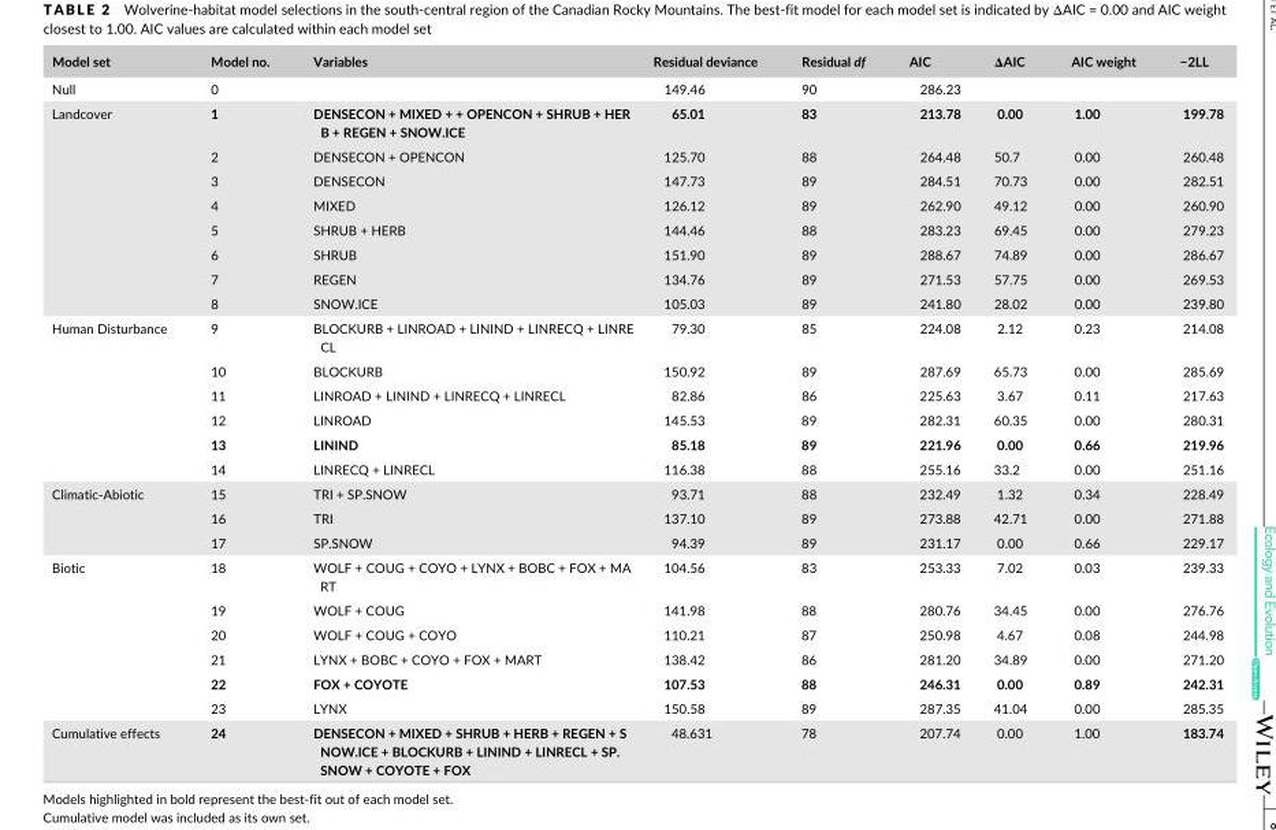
<table><thead><tr><td>Model set</td><td>Model no.</td><td>Variables</td><td>Residual deviance</td><td>Residual df</td><td>AIC</td><td>ΔAIC</td><td>AIC weight</td><td>−2LL</td></tr></thead><tbody><tr><td>Null</td><td>0</td><td></td><td>149.46</td><td>90</td><td>286.23</td><td></td><td></td><td></td></tr><tr><td rowspan="8">Landcover</td><td>1</td><td>DENSECON + MIXED + + OPENCON + SHRUB + HER B + REGEN + SNOW.ICE</td><td>65.01</td><td>83</td><td>213.78</td><td>0.00</td><td>1.00</td><td>199.78</td></tr><tr><td>2</td><td>DENSECON + OPENCON</td><td>125.70</td><td>88</td><td>264.48</td><td>50.7</td><td>0.00</td><td>260.48</td></tr><tr><td>3</td><td>DENSECON</td><td>147.73</td><td>89</td><td>284.51</td><td>70.73</td><td>0.00</td><td>282.51</td></tr><tr><td>4</td><td>MIXED</td><td>126.12</td><td>89</td><td>262.90</td><td>49.12</td><td>0.00</td><td>260.90</td></tr><tr><td>5</td><td>SHRUB + HERB</td><td>144.46</td><td>88</td><td>283.23</td><td>69.45</td><td>0.00</td><td>279.23</td></tr><tr><td>6</td><td>SHRUB</td><td>151.90</td><td>89</td><td>288.67</td><td>74.89</td><td>0.00</td><td>286.67</td></tr><tr><td>7</td><td>REGEN</td><td>134.76</td><td>89</td><td>271.53</td><td>57.75</td><td>0.00</td><td>269.53</td></tr><tr><td>8</td><td>SNOW.ICE</td><td>105.03</td><td>89</td><td>241.80</td><td>28.02</td><td>0.00</td><td>239.80</td></tr><tr><td rowspan="6">Human Disturbance</td><td>9</td><td>BLOCKURB + LINROAD + LININD + LINRECQ + LINRE CL</td><td>79.30</td><td>85</td><td>224.08</td><td>2.12</td><td>0.23</td><td>214.08</td></tr><tr><td>10</td><td>BLOCKURB</td><td>150.92</td><td>89</td><td>287.69</td><td>65.73</td><td>0.00</td><td>285.69</td></tr><tr><td>11</td><td>LINROAD + LININD + LINRECQ + LINRECL</td><td>82.86</td><td>86</td><td>225.63</td><td>3.67</td><td>0.11</td><td>217.63</td></tr><tr><td>12</td><td>LINROAD</td><td>145.53</td><td>89</td><td>282.31</td><td>60.35</td><td>0.00</td><td>280.31</td></tr><tr><td>13</td><td>LININD</td><td>85.18</td><td>89</td><td>221.96</td><td>0.00</td><td>0.66</td><td>219.96</td></tr><tr><td>14</td><td>LINRECQ + LINRECL</td><td>116.38</td><td>88</td><td>255.16</td><td>33.2</td><td>0.00</td><td>251.16</td></tr><tr><td rowspan="3">Climatic- Abiotic</td><td>15</td><td>TRI + SP.SNOW</td><td>93.71</td><td>88</td><td>232.49</td><td>1.32</td><td>0.34</td><td>228.49</td></tr><tr><td>16</td><td>TRI</td><td>137.10</td><td>89</td><td>273.88</td><td>42.71</td><td>0.00</td><td>271.88</td></tr><tr><td>17</td><td>SP.SNOW</td><td>94.39</td><td>89</td><td>231.17</td><td>0.00</td><td>0.66</td><td>229.17</td></tr><tr><td rowspan="6">Biotic</td><td>18</td><td>WOLF + COUG + COYO + LYNX + BOBC + FOX + MA RT</td><td>104.56</td><td>83</td><td>253.33</td><td>7.02</td><td>0.03</td><td>239.33</td></tr><tr><td>19</td><td>WOLF + COUG</td><td>141.98</td><td>88</td><td>280.76</td><td>34.45</td><td>0.00</td><td>276.76</td></tr><tr><td>20</td><td>WOLF + COUG + COYO</td><td>110.21</td><td>87</td><td>250.98</td><td>4.67</td><td>0.08</td><td>244.98</td></tr><tr><td>21</td><td>LYNX + BOBC + COYO + FOX + MART</td><td>138.42</td><td>86</td><td>281.20</td><td>34.89</td><td>0.00</td><td>271.20</td></tr><tr><td>22</td><td>FOX + COYOTE</td><td>107.53</td><td>88</td><td>246.31</td><td>0.00</td><td>0.89</td><td>242.31</td></tr><tr><td>23</td><td>LYNX</td><td>150.58</td><td>89</td><td>287.35</td><td>41.04</td><td>0.00</td><td>285.35</td></tr><tr><td>Cumulative effects</td><td>24</td><td>DENSECON + MIXED + SHRUB + HERB + REGEN + S NOW.ICE + BLOCKURB + LININD + LINRECL + SP. SNOW + COYOTE + FOX</td><td>48.631</td><td>78</td><td>207.74</td><td>0.00</td><td>1.00</td><td>183.74</td></tr></tbody></table>